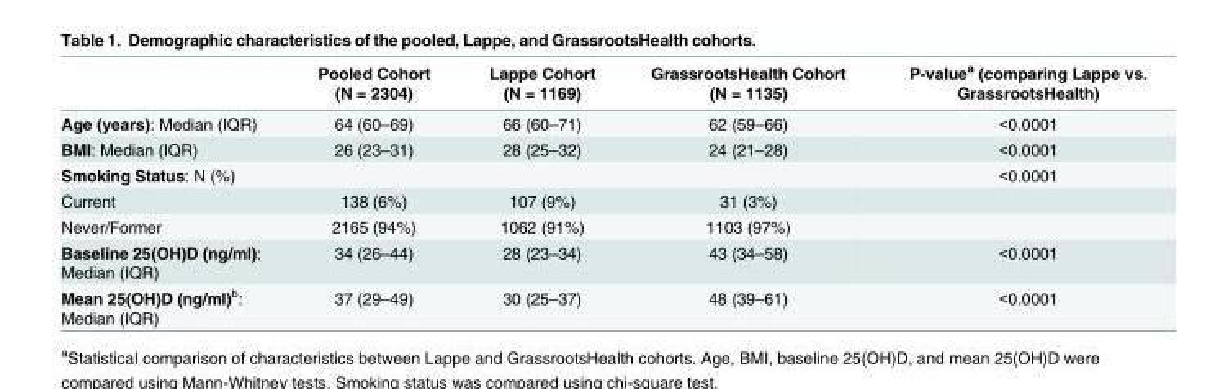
<table><thead><tr><td></td><td>Pooled Cohort (N = 2304)</td><td>Lappe Cohort (N = 1169)</td><td>GrassrootsHealth Cohort (N = 1135)</td><td>P-value<sup>a</sup> (comparing Lappe vs. GrassrootsHealth)</td></tr></thead><tbody><tr><td>Age (years): Median (IQR)</td><td>64 (60–69)</td><td>66 (60–71)</td><td>62 (59–66)</td><td>&lt;0.0001</td></tr><tr><td>BMI: Median (IQR)</td><td>26 (23–31)</td><td>28 (25–32)</td><td>24 (21–28)</td><td>&lt;0.0001</td></tr><tr><td>Smoking Status: N (%)</td><td></td><td></td><td></td><td>&lt;0.0001</td></tr><tr><td>Current</td><td>138 (6%)</td><td>107 (9%)</td><td>31 (3%)</td><td></td></tr><tr><td>Never/Former</td><td>2165 (94%)</td><td>1062 (91%)</td><td>1103 (97%)</td><td></td></tr><tr><td>Baseline 25(OH)D (ng/ml): Median (IQR)</td><td>34 (26–44)</td><td>28 (23–34)</td><td>43 (34–58)</td><td>&lt;0.0001</td></tr><tr><td>Mean 25(OH)D (ng/ml)<sup>b</sup>: Median (IQR)</td><td>37 (29–49)</td><td>30 (25–37)</td><td>48 (39–61)</td><td>&lt;0.0001</td></tr></tbody></table>